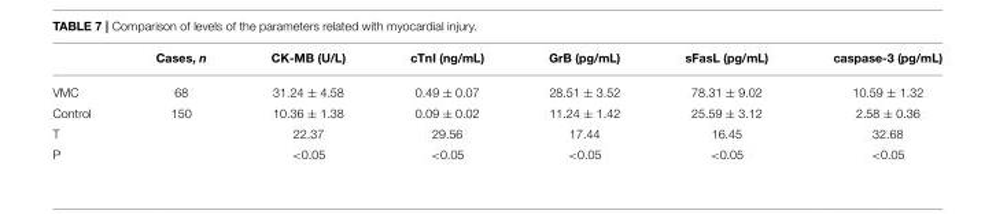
<table><thead><tr><td></td><td>Cases, n</td><td>CK-MB (U/L)</td><td>cTnI (ng/mL)</td><td>GrB (pg/mL)</td><td>sFasL (pg/mL)</td><td>caspase-3 (pg/mL)</td></tr></thead><tbody><tr><td>VMC</td><td>68</td><td>31.24 ± 4.58</td><td>0.49 ± 0.07</td><td>28.51 ± 3.52</td><td>78.31 ± 9.02</td><td>10.59 ± 1.32</td></tr><tr><td>Control</td><td>150</td><td>10.36 ± 1.38</td><td>0.09 ± 0.02</td><td>11.24 ± 1.42</td><td>25.59 ± 3.12</td><td>2.58 ± 0.36</td></tr><tr><td>T</td><td></td><td>22.37</td><td>29.56</td><td>17.44</td><td>16.45</td><td>32.68</td></tr><tr><td>P</td><td></td><td>&lt;0.05</td><td>&lt;0.05</td><td>&lt;0.05</td><td>&lt;0.05</td><td>&lt;0.05</td></tr></tbody></table>